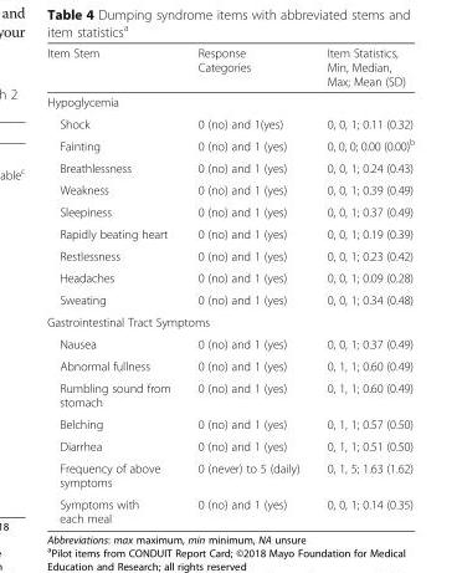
<table><thead><tr><td>Item Stem</td><td>Response Categories</td><td>Item Statistics, Min, Median, Max; Mean (SD)</td></tr></thead><tbody><tr><td colspan="3">Hypoglycemia</td></tr><tr><td>Shock</td><td>0 (no) and 1(yes)</td><td>0, 0, 1; 0.11 (0.32)</td></tr><tr><td>Fainting</td><td>0 (no) and 1 (yes)</td><td>0, 0, 0; 0.00 (0.00)<sup>b</sup></td></tr><tr><td>Breathlessness</td><td>0 (no) and 1 (yes)</td><td>0, 0, 1; 0.24 (0.43)</td></tr><tr><td>Weakness</td><td>0 (no) and 1 (yes)</td><td>0, 0, 1; 0.39 (0.49)</td></tr><tr><td>Sleepiness</td><td>0 (no) and 1 (yes)</td><td>0, 0, 1; 0.37 (0.49)</td></tr><tr><td>Rapidly beating heart</td><td>0 (no) and 1 (yes)</td><td>0, 0, 1; 0.19 (0.39)</td></tr><tr><td>Restlessness</td><td>0 (no) and 1 (yes)</td><td>0, 0, 1; 0.23 (0.42)</td></tr><tr><td>Headaches</td><td>0 (no) and 1 (yes)</td><td>0, 0, 1; 0.09 (0.28)</td></tr><tr><td>Sweating</td><td>0 (no) and 1 (yes)</td><td>0, 0, 1; 0.34 (0.48)</td></tr><tr><td colspan="3">Gastrointestinal Tract Symptoms</td></tr><tr><td>Nausea</td><td>0 (no) and 1 (yes)</td><td>0, 0, 1; 0.37 (0.49)</td></tr><tr><td>Abnormal fullness</td><td>0 (no) and 1 (yes)</td><td>0, 1, 1; 0.60 (0.49)</td></tr><tr><td>Rumbling sound from stomach</td><td>0 (no) and 1 (yes)</td><td>0, 1, 1; 0.60 (0.49)</td></tr><tr><td>Belching</td><td>0 (no) and 1 (yes)</td><td>0, 1, 1; 0.57 (0.50)</td></tr><tr><td>Diarrhea</td><td>0 (no) and 1 (yes)</td><td>0, 1, 1; 0.51 (0.50)</td></tr><tr><td>Frequency of above symptoms</td><td>0 (never) to 5 (daily)</td><td>0, 1, 5; 1.63 (1.62)</td></tr><tr><td>Symptoms with each meal</td><td>0 (no) and 1 (yes)</td><td>0, 0, 1; 0.14 (0.35)</td></tr></tbody></table>